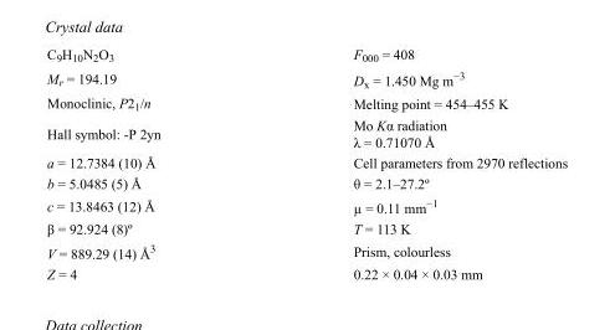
<table><tbody><tr><td>C<sub>9</sub>H<sub>10</sub>N<sub>2</sub>O<sub>3</sub></td><td>F000 = 408</td></tr><tr><td>M<sub>r</sub> = 194.19</td><td>D<sub>x</sub> = 1.450 Mg m<sup>−3</sup></td></tr><tr><td>Monoclinic, P2<sub>1</sub>/n</td><td>Melting point = 454–455 K</td></tr><tr><td>Hall symbol: -P 2yn</td><td>Mo Kα radiation λ = 0.71070 Å</td></tr><tr><td>a = 12.7384 (10) Å</td><td>Cell parameters from 2970 reflections</td></tr><tr><td>b = 5.0485 (5) Å</td><td>θ = 2.1–27.2º</td></tr><tr><td>c = 13.8463 (12) Å</td><td>µ = 0.11 mm<sup>−1</sup></td></tr><tr><td>β = 92.924 (8)º</td><td>T = 113 K</td></tr><tr><td>V = 889.29 (14) Å<sup>3</sup></td><td>Prism, colourless</td></tr><tr><td>Z = 4</td><td>0.22 × 0.04 × 0.03 mm</td></tr></tbody></table>